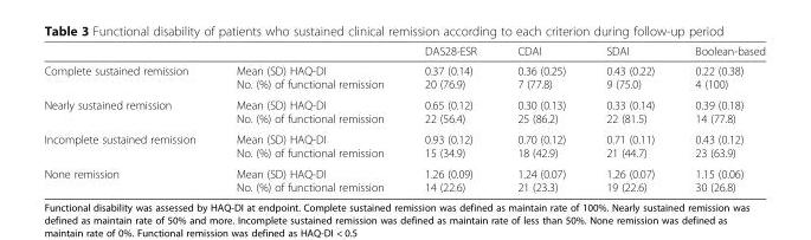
<table><thead><tr><td></td><td></td><td>DAS28-ESR</td><td>CDAI</td><td>SDAI</td><td>Boolean-based</td></tr></thead><tbody><tr><td>Complete sustained remission</td><td>Mean (SD) HAQ-DI No. (%) of functional remission</td><td>0.37 (0.14) 20 (76.9)</td><td>0.36 (0.25) 7 (77.8)</td><td>0.43 (0.22) 9 (75.0)</td><td>0.22 (0.38) 4 (100)</td></tr><tr><td>Nearly sustained remission</td><td>Mean (SD) HAQ-DI No. (%) of functional remission</td><td>0.65 (0.12) 22 (56.4)</td><td>0.30 (0.13) 25 (86.2)</td><td>0.33 (0.14) 22 (81.5)</td><td>0.39 (0.18) 14 (77.8)</td></tr><tr><td>Incomplete sustained remission</td><td>Mean (SD) HAQ-DI No. (%) of functional remission</td><td>0.93 (0.12) 15 (34.9)</td><td>0.70 (0.12) 18 (42.9)</td><td>0.71 (0.11) 21 (44.7)</td><td>0.43 (0.12) 23 (63.9)</td></tr><tr><td>None remission</td><td>Mean (SD) HAQ-DI No. (%) of functional remission</td><td>1.26 (0.09) 14 (22.6)</td><td>1.24 (0.07) 21 (23.3)</td><td>1.26 (0.07) 19 (22.6)</td><td>1.15 (0.06) 30 (26.8)</td></tr></tbody></table>